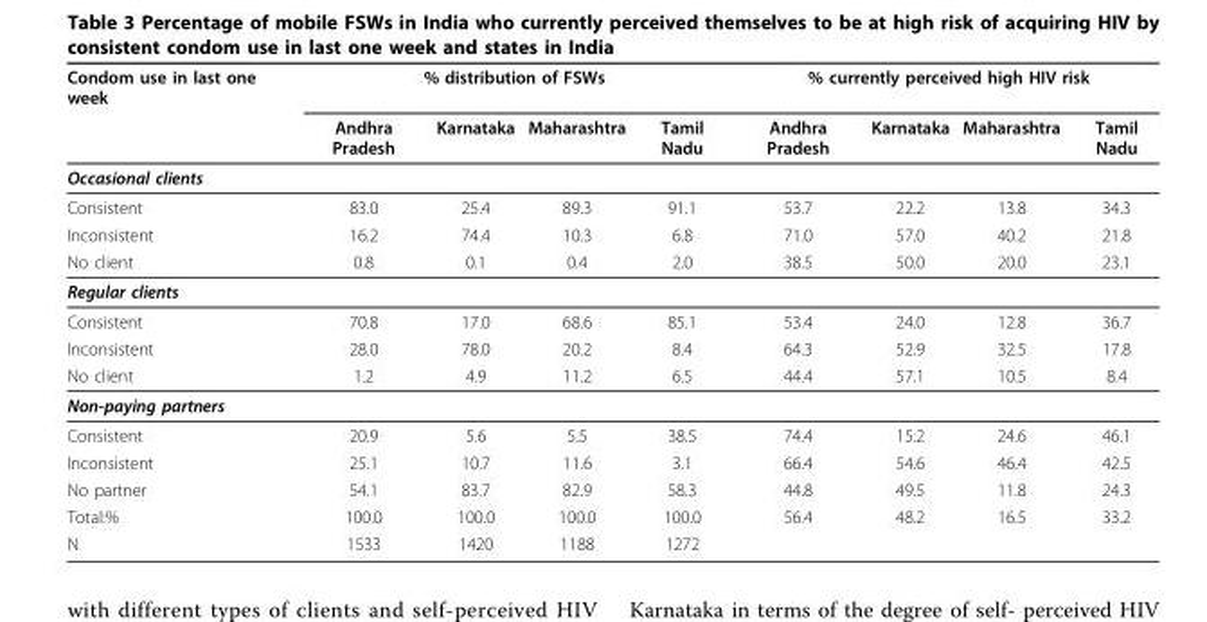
<table><thead><tr><td rowspan="2">Condom use in last one week</td><td colspan="4">% distribution of FSWs</td><td colspan="4">% currently perceived high HIV risk</td></tr><tr><td>Andhra Pradesh</td><td>Karnataka</td><td>Maharashtra</td><td>Tamil Nadu</td><td>Andhra Pradesh</td><td>Karnataka</td><td>Maharashtra</td><td>Tamil Nadu</td></tr></thead><tbody><tr><td colspan="9">Occasional clients</td></tr><tr><td>Consistent</td><td>83.0</td><td>25.4</td><td>89.3</td><td>91.1</td><td>53.7</td><td>22.2</td><td>13.8</td><td>34.3</td></tr><tr><td>Inconsistent</td><td>16.2</td><td>74.4</td><td>10.3</td><td>6.8</td><td>71.0</td><td>57.0</td><td>40.2</td><td>21.8</td></tr><tr><td>No client</td><td>0.8</td><td>0.1</td><td>0.4</td><td>2.0</td><td>38.5</td><td>50.0</td><td>20.0</td><td>23.1</td></tr><tr><td colspan="9">Regular clients</td></tr><tr><td>Consistent</td><td>70.8</td><td>17.0</td><td>68.6</td><td>85.1</td><td>53.4</td><td>24.0</td><td>12.8</td><td>36.7</td></tr><tr><td>Inconsistent</td><td>28.0</td><td>78.0</td><td>20.2</td><td>8.4</td><td>64.3</td><td>52.9</td><td>32.5</td><td>17.8</td></tr><tr><td>No client</td><td>1.2</td><td>4.9</td><td>11.2</td><td>6.5</td><td>44.4</td><td>57.1</td><td>10.5</td><td>8.4</td></tr><tr><td colspan="9">Non-paying partners</td></tr><tr><td>Consistent</td><td>20.9</td><td>5.6</td><td>5.5</td><td>38.5</td><td>74.4</td><td>15.2</td><td>24.6</td><td>46.1</td></tr><tr><td>Inconsistent</td><td>25.1</td><td>10.7</td><td>11.6</td><td>3.1</td><td>66.4</td><td>54.6</td><td>46.4</td><td>42.5</td></tr><tr><td>No partner</td><td>54.1</td><td>83.7</td><td>82.9</td><td>58.3</td><td>44.8</td><td>49.5</td><td>11.8</td><td>24.3</td></tr><tr><td>Total:%</td><td>100.0</td><td>100.0</td><td>100.0</td><td>100.0</td><td>56.4</td><td>48.2</td><td>16.5</td><td>33.2</td></tr><tr><td>N</td><td>1533</td><td>1420</td><td>1188</td><td>1272</td><td></td><td></td><td></td><td></td></tr></tbody></table>